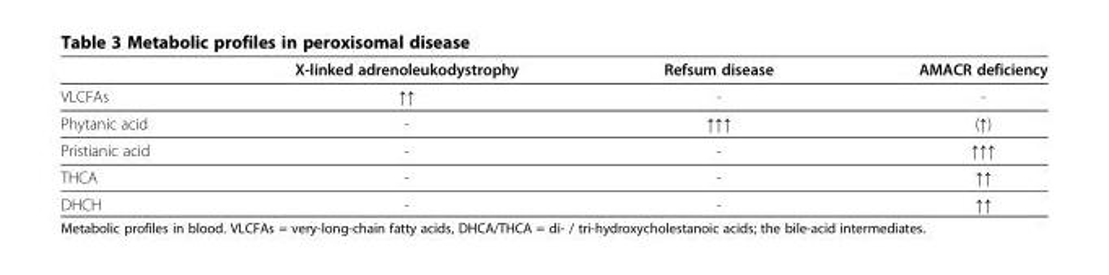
<table><thead><tr><td></td><td>X-linked adrenoleukodystrophy</td><td>Refsum disease</td><td>AMACR deficiency</td></tr></thead><tbody><tr><td>VLCFAs</td><td>↑↑</td><td>-</td><td>-</td></tr><tr><td>Phytanic acid</td><td>-</td><td>↑↑↑</td><td>(↑)</td></tr><tr><td>Pristianic acid</td><td>-</td><td>-</td><td>↑↑↑</td></tr><tr><td>THCA</td><td>-</td><td>-</td><td>↑↑</td></tr><tr><td>DHCH</td><td>-</td><td>-</td><td>↑↑</td></tr></tbody></table>